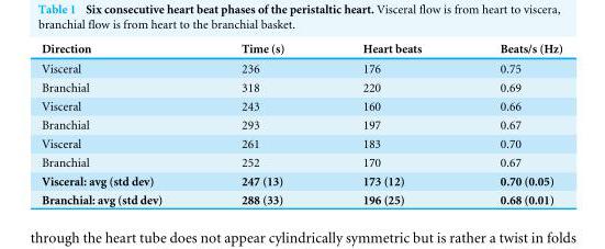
<table><thead><tr><td>Direction</td><td>Time (s)</td><td>Heart beats</td><td>Beats/s (Hz)</td></tr></thead><tbody><tr><td>Visceral</td><td>236</td><td>176</td><td>0.75</td></tr><tr><td>Branchial</td><td>318</td><td>220</td><td>0.69</td></tr><tr><td>Visceral</td><td>243</td><td>160</td><td>0.66</td></tr><tr><td>Branchial</td><td>293</td><td>197</td><td>0.67</td></tr><tr><td>Visceral</td><td>261</td><td>183</td><td>0.70</td></tr><tr><td>Branchial</td><td>252</td><td>170</td><td>0.67</td></tr><tr><td>Visceral: avg (std dev)</td><td>247 (13)</td><td>173 (12)</td><td>0.70 (0.05)</td></tr><tr><td>Branchial: avg (std dev)</td><td>288 (33)</td><td>196 (25)</td><td>0.68 (0.01)</td></tr></tbody></table>